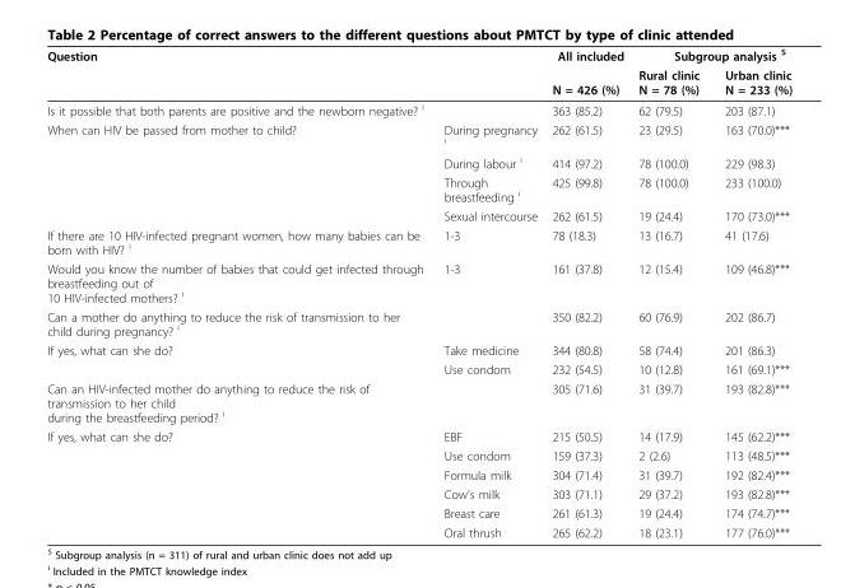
<table><thead><tr><td rowspan="2">Question</td><td rowspan="2"></td><td rowspan="2">All included N = 426 (%)</td><td colspan="2">Subgroup analysis <sup>S</sup></td></tr><tr><td>Rural clinic N = 78 (%)</td><td>Urban clinic N = 233 (%)</td></tr></thead><tbody><tr><td>Is it possible that both parents are positive and the newborn negative? <sup>i</sup></td><td></td><td>363 (85.2)</td><td>62 (79.5)</td><td>203 (87.1)</td></tr><tr><td rowspan="4">When can HIV be passed from mother to child?</td><td>During pregnancy <sup>i</sup></td><td>262 (61.5)</td><td>23 (29.5)</td><td>163 (70.0)***</td></tr><tr><td>During labour <sup>i</sup></td><td>414 (97.2)</td><td>78 (100.0)</td><td>229 (98.3)</td></tr><tr><td>Through breastfeeding <sup>i</sup></td><td>425 (99.8)</td><td>78 (100.0)</td><td>233 (100.0)</td></tr><tr><td>Sexual intercourse</td><td>262 (61.5)</td><td>19 (24.4)</td><td>170 (73.0)***</td></tr><tr><td>If there are 10 HIV-infected pregnant women, how many babies can be born with HIV? <sup>i</sup></td><td>1-3</td><td>78 (18.3)</td><td>13 (16.7)</td><td>41 (17.6)</td></tr><tr><td>Would you know the number of babies that could get infected through breastfeeding out of 10 HIV-infected mothers? <sup>i</sup></td><td>1-3</td><td>161 (37.8)</td><td>12 (15.4)</td><td>109 (46.8)***</td></tr><tr><td>Can a mother do anything to reduce the risk of transmission to her child during pregnancy? <sup>i</sup></td><td></td><td>350 (82.2)</td><td>60 (76.9)</td><td>202 (86.7)</td></tr><tr><td rowspan="2">If yes, what can she do?</td><td>Take medicine</td><td>344 (80.8)</td><td>58 (74.4)</td><td>201 (86.3)</td></tr><tr><td>Use condom</td><td>232 (54.5)</td><td>10 (12.8)</td><td>161 (69.1)***</td></tr><tr><td>Can an HIV-infected mother do anything to reduce the risk of transmission to her child during the breastfeeding period? <sup>i</sup></td><td></td><td>305 (71.6)</td><td>31 (39.7)</td><td>193 (82.8)***</td></tr><tr><td rowspan="6">If yes, what can she do?</td><td>EBF</td><td>215 (50.5)</td><td>14 (17.9)</td><td>145 (62.2)***</td></tr><tr><td>Use condom</td><td>159 (37.3)</td><td>2 (2.6)</td><td>113 (48.5)***</td></tr><tr><td>Formula milk</td><td>304 (71.4)</td><td>31 (39.7)</td><td>192 (82.4)***</td></tr><tr><td>Cow’s milk</td><td>303 (71.1)</td><td>29 (37.2)</td><td>193 (82.8)***</td></tr><tr><td>Breast care</td><td>261 (61.3)</td><td>19 (24.4)</td><td>174 (74.7)***</td></tr><tr><td>Oral thrush</td><td>265 (62.2)</td><td>18 (23.1)</td><td>177 (76.0)***</td></tr></tbody></table>